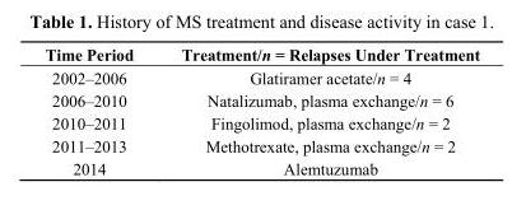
<table><thead><tr><td>Time Period</td><td>Treatment/n = Relapses Under Treatment</td></tr></thead><tbody><tr><td>2002–2006</td><td>Glatiramer acetate/n = 4</td></tr><tr><td>2006–2010</td><td>Natalizumab, plasma exchange/n = 6</td></tr><tr><td>2010–2011</td><td>Fingolimod, plasma exchange/n = 2</td></tr><tr><td>2011–2013</td><td>Methotrexate, plasma exchange/n = 2</td></tr><tr><td>2014</td><td>Alemtuzumab</td></tr></tbody></table>